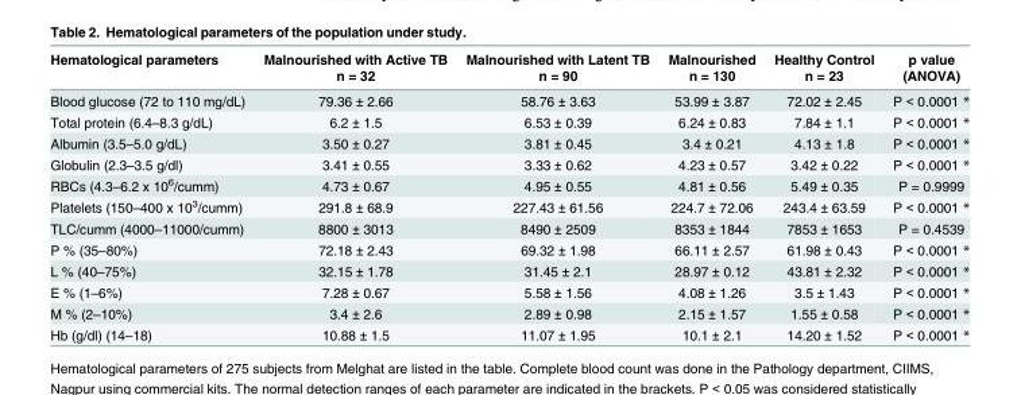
<table><thead><tr><td rowspan="2">Hematological parameters</td><td rowspan="2">Malnourished with Active TB n = 32</td><td rowspan="2">Malnourished with Latent TB n = 90</td><td rowspan="2">Malnourished n = 130</td><td rowspan="2">Healthy Control n = 23</td><td rowspan="2">p value (ANOVA)</td></tr><tr></tr></thead><tbody><tr><td>Blood glucose (72 to 110 mg/dL)</td><td>79.36 ± 2.66</td><td>58.76 ± 3.63</td><td>53.99 ± 3.87</td><td>72.02 ± 2.45</td><td>P &lt; 0.0001 *</td></tr><tr><td>Total protein (6.4–8.3 g/dL)</td><td>6.2 ± 1.5</td><td>6.53 ± 0.39</td><td>6.24 ± 0.83</td><td>7.84 ± 1.1</td><td>P &lt; 0.0001 *</td></tr><tr><td>Albumin (3.5–5.0 g/dL)</td><td>3.50 ± 0.27</td><td>3.81 ± 0.45</td><td>3.4 ± 0.21</td><td>4.13 ± 1.8</td><td>P &lt; 0.0001 *</td></tr><tr><td>Globulin (2.3–3.5 g/dl)</td><td>3.41 ± 0.55</td><td>3.33 ± 0.62</td><td>4.23 ± 0.57</td><td>3.42 ± 0.22</td><td>P &lt; 0.0001 *</td></tr><tr><td>RBCs (4.3–6.2 x 10<sup>6</sup>/cumm)</td><td>4.73 ± 0.67</td><td>4.95 ± 0.55</td><td>4.81 ± 0.56</td><td>5.49 ± 0.35</td><td>P = 0.9999</td></tr><tr><td>Platelets (150–400 x 10<sup>3</sup>/cumm)</td><td>291.8 ± 68.9</td><td>227.43 ± 61.56</td><td>224.7 ± 72.06</td><td>243.4 ± 63.59</td><td>P &lt; 0.0001 *</td></tr><tr><td>TLC/cumm (4000–11000/cumm)</td><td>8800 ± 3013</td><td>8490 ± 2509</td><td>8353 ± 1844</td><td>7853 ± 1653</td><td>P = 0.4539</td></tr><tr><td>P % (35–80%)</td><td>72.18 ± 2.43</td><td>69.32 ± 1.98</td><td>66.11 ± 2.57</td><td>61.98 ± 0.43</td><td>P &lt; 0.0001 *</td></tr><tr><td>L % (40–75%)</td><td>32.15 ± 1.78</td><td>31.45 ± 2.1</td><td>28.97 ± 0.12</td><td>43.81 ± 2.32</td><td>P &lt; 0.0001 *</td></tr><tr><td>E % (1–6%)</td><td>7.28 ± 0.67</td><td>5.58 ± 1.56</td><td>4.08 ± 1.26</td><td>3.5 ± 1.43</td><td>P &lt; 0.0001 *</td></tr><tr><td>M % (2–10%)</td><td>3.4 ± 2.6</td><td>2.89 ± 0.98</td><td>2.15 ± 1.57</td><td>1.55 ± 0.58</td><td>P &lt; 0.0001 *</td></tr><tr><td>Hb (g/dl) (14–18)</td><td>10.88 ± 1.5</td><td>11.07 ± 1.95</td><td>10.1 ± 2.1</td><td>14.20 ± 1.52</td><td>P &lt; 0.0001 *</td></tr></tbody></table>